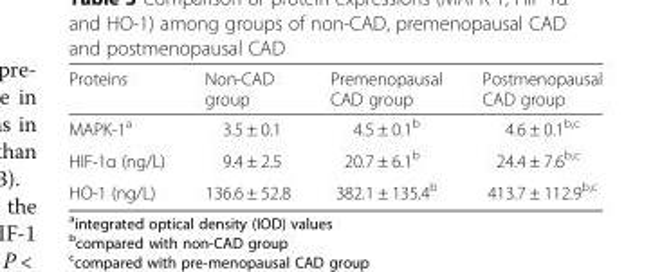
<table><thead><tr><td>Proteins</td><td>Non-CAD group</td><td>Premenopausal CAD group</td><td>Postmenopausal CAD group</td></tr></thead><tbody><tr><td>MAPK-1<sup>a</sup></td><td>3.5 ± 0.1</td><td>4.5 ± 0.1<sup>b</sup></td><td>4.6 ± 0.1<sup>b,c</sup></td></tr><tr><td>HIF-1α (ng/L)</td><td>9.4 ± 2.5</td><td>20.7 ± 6.1<sup>b</sup></td><td>24.4 ± 7.6<sup>b,c</sup></td></tr><tr><td>HO-1 (ng/L)</td><td>136.6 ± 52.8</td><td>382.1 ± 135.4<sup>b</sup></td><td>413.7 ± 112.9<sup>b,c</sup></td></tr></tbody></table>